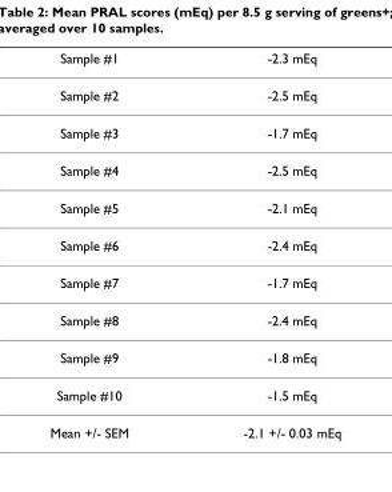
<table><thead><tr><td>Sample #1</td><td>-2.3 mEq</td></tr></thead><tbody><tr><td>Sample #2</td><td>-2.5 mEq</td></tr><tr><td>Sample #3</td><td>-1.7 mEq</td></tr><tr><td>Sample #4</td><td>-2.5 mEq</td></tr><tr><td>Sample #5</td><td>-2.1 mEq</td></tr><tr><td>Sample #6</td><td>-2.4 mEq</td></tr><tr><td>Sample #7</td><td>-1.7 mEq</td></tr><tr><td>Sample #8</td><td>-2.4 mEq</td></tr><tr><td>Sample #9</td><td>-1.8 mEq</td></tr><tr><td>Sample #10</td><td>-1.5 mEq</td></tr><tr><td>Mean +/- SEM</td><td>-2.1 +/- 0.03 mEq</td></tr></tbody></table>